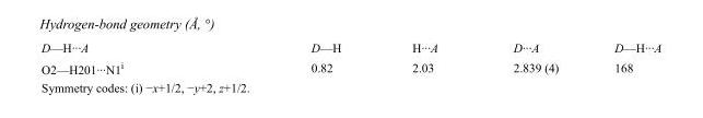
<table><tbody><tr><td>D—H···A</td><td>D—H</td><td>H···A</td><td>D···A</td><td>D—H···A</td></tr><tr><td>O2—H201···N1<sup>i</sup></td><td>0.82</td><td>2.03</td><td>2.839 (4)</td><td>168</td></tr></tbody></table>